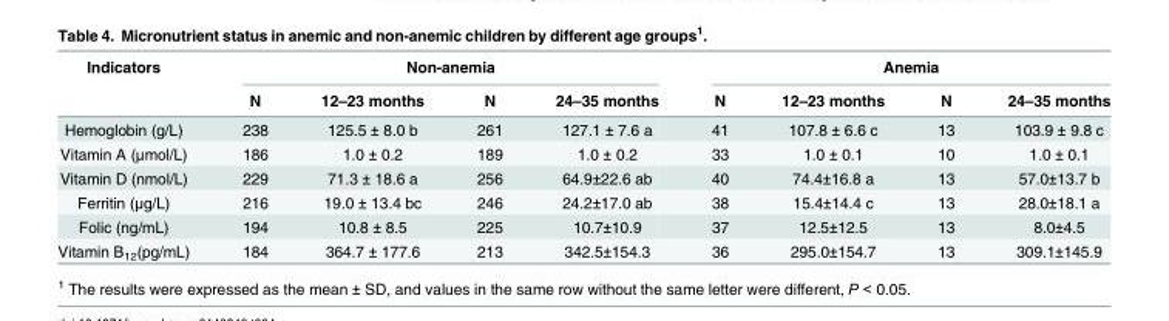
<table><thead><tr><td rowspan="2">Indicators</td><td colspan="4">Non-anemia</td><td colspan="4">Anemia</td></tr><tr><td>N</td><td>12–23 months</td><td>N</td><td>24–35 months</td><td>N</td><td>12–23 months</td><td>N</td><td>24–35 months</td></tr></thead><tbody><tr><td>Hemoglobin (g/L)</td><td>238</td><td>125.5 ± 8.0 b</td><td>261</td><td>127.1 ± 7.6 a</td><td>41</td><td>107.8 ± 6.6 c</td><td>13</td><td>103.9 ± 9.8 c</td></tr><tr><td>Vitamin A (μmol/L)</td><td>186</td><td>1.0 ± 0.2</td><td>189</td><td>1.0 ± 0.2</td><td>33</td><td>1.0 ± 0.1</td><td>10</td><td>1.0 ± 0.1</td></tr><tr><td>Vitamin D (nmol/L)</td><td>229</td><td>71.3 ± 18.6 a</td><td>256</td><td>64.9±22.6 ab</td><td>40</td><td>74.4±16.8 a</td><td>13</td><td>57.0±13.7 b</td></tr><tr><td>Ferritin (μg/L)</td><td>216</td><td>19.0 ± 13.4 bc</td><td>246</td><td>24.2±17.0 ab</td><td>38</td><td>15.4±14.4 c</td><td>13</td><td>28.0±18.1 a</td></tr><tr><td>Folic (ng/mL)</td><td>194</td><td>10.8 ± 8.5</td><td>225</td><td>10.7±10.9</td><td>37</td><td>12.5±12.5</td><td>13</td><td>8.0±4.5</td></tr><tr><td>Vitamin B<sub>12</sub>(pg/mL)</td><td>184</td><td>364.7 ± 177.6</td><td>213</td><td>342.5±154.3</td><td>36</td><td>295.0±154.7</td><td>13</td><td>309.1±145.9</td></tr></tbody></table>